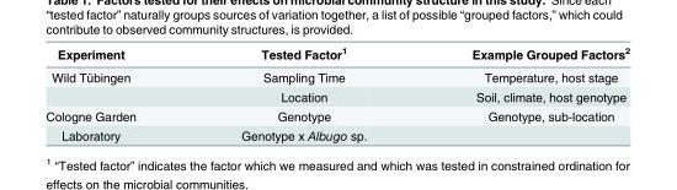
<table><thead><tr><td>Experiment</td><td>Tested Factor<sup>1</sup></td><td>Example Grouped Factors<sup>2</sup></td></tr></thead><tbody><tr><td rowspan="2">Wild Tübingen</td><td>Sampling Time</td><td>Temperature, host stage</td></tr><tr><td>Location</td><td>Soil, climate, host genotype</td></tr><tr><td>Cologne Garden</td><td>Genotype</td><td>Genotype, sub-location</td></tr><tr><td>Laboratory</td><td>Genotype x Albugo sp.</td><td></td></tr></tbody></table>